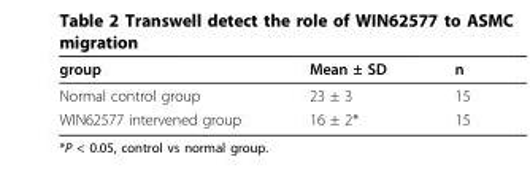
<table><thead><tr><td>group</td><td>Mean ± SD</td><td>n</td></tr></thead><tbody><tr><td>Normal control group</td><td>23 ± 3</td><td>15</td></tr><tr><td>WIN62577 intervened group</td><td>16 ± 2*</td><td>15</td></tr></tbody></table>